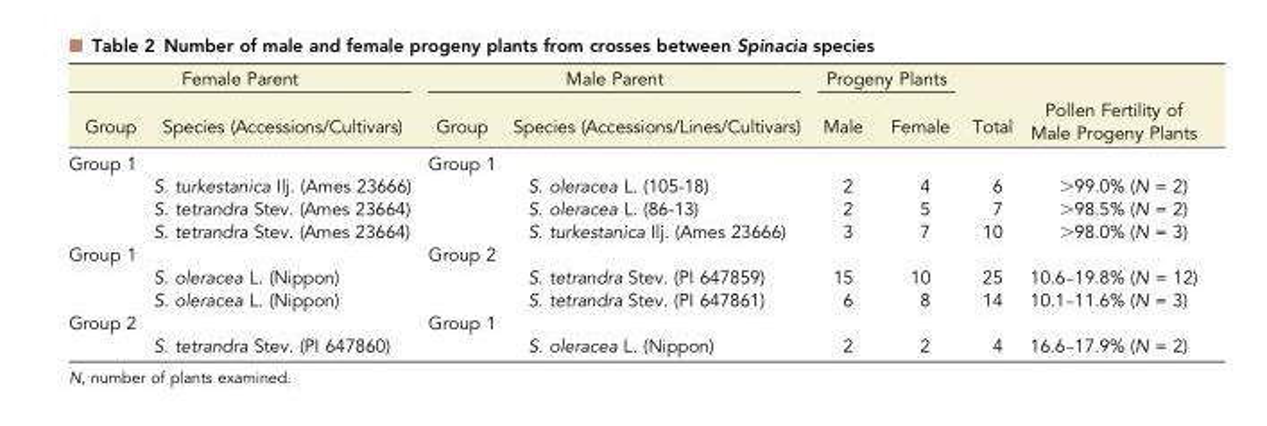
<table><thead><tr><td colspan="2">Female Parent</td><td colspan="2">Male Parent</td><td colspan="2">Progeny Plants</td><td rowspan="2">Total</td><td rowspan="2">Pollen Fertility of Male Progeny Plants</td></tr><tr><td>Group</td><td>Species (Accessions/Cultivars)</td><td>Group</td><td>Species (Accessions/Lines/Cultivars)</td><td>Male</td><td>Female</td></tr></thead><tbody><tr><td rowspan="4">Group 1</td><td></td><td>Group 1</td><td></td><td></td><td></td><td></td><td></td></tr><tr><td>S. turkestanica Ilj. (Ames 23666)</td><td></td><td>S. oleracea L. (105-18)</td><td>2</td><td>4</td><td>6</td><td>&gt;99.0% (N = 2)</td></tr><tr><td>S. tetrandra Stev. (Ames 23664)</td><td></td><td>S. oleracea L. (86-13)</td><td>2</td><td>5</td><td>7</td><td>&gt;98.5% (N = 2)</td></tr><tr><td>S. tetrandra Stev. (Ames 23664)</td><td></td><td>S. turkestanica Ilj. (Ames 23666)</td><td>3</td><td>7</td><td>10</td><td>&gt;98.0% (N = 3)</td></tr><tr><td rowspan="3">Group 1</td><td></td><td>Group 2</td><td></td><td></td><td></td><td></td><td></td></tr><tr><td>S. oleracea L. (Nippon)</td><td></td><td>S. tetrandra Stev. (PI 647859)</td><td>15</td><td>10</td><td>25</td><td>10.6–19.8% (N = 12)</td></tr><tr><td>S. oleracea L. (Nippon)</td><td></td><td>S. tetrandra Stev. (PI 647861)</td><td>6</td><td>8</td><td>14</td><td>10.1–11.6% (N = 3)</td></tr><tr><td rowspan="2">Group 2</td><td></td><td>Group 1</td><td></td><td></td><td></td><td></td><td></td></tr><tr><td>S. tetrandra Stev. (PI 647860)</td><td></td><td>S. oleracea L. (Nippon)</td><td>2</td><td>2</td><td>4</td><td>16.6–17.9% (N = 2)</td></tr></tbody></table>